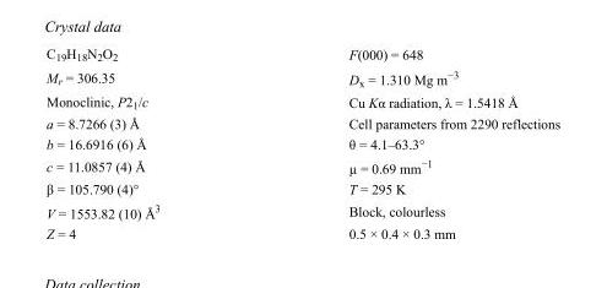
<table><tbody><tr><td>C<sub>19</sub>H<sub>18</sub>N<sub>2</sub>O<sub>2</sub></td><td>F(000) = 648</td></tr><tr><td>M<sub>r</sub> = 306.35</td><td>D<sub>x</sub> = 1.310 Mg m<sup>−3</sup></td></tr><tr><td>Monoclinic, P2<sub>1</sub>/c</td><td>Cu Kα radiation, λ = 1.5418 Å</td></tr><tr><td>a = 8.7266 (3) Å</td><td>Cell parameters from 2290 reflections</td></tr><tr><td>b = 16.6916 (6) Å</td><td>θ = 4.1–63.3°</td></tr><tr><td>c = 11.0857 (4) Å</td><td>µ = 0.69 mm<sup>−1</sup></td></tr><tr><td>β = 105.790 (4)°</td><td>T = 295 K</td></tr><tr><td>V = 1553.82 (10) Å<sup>3</sup></td><td>Block, colourless</td></tr><tr><td>Z = 4</td><td>0.5 × 0.4 × 0.3 mm</td></tr></tbody></table>